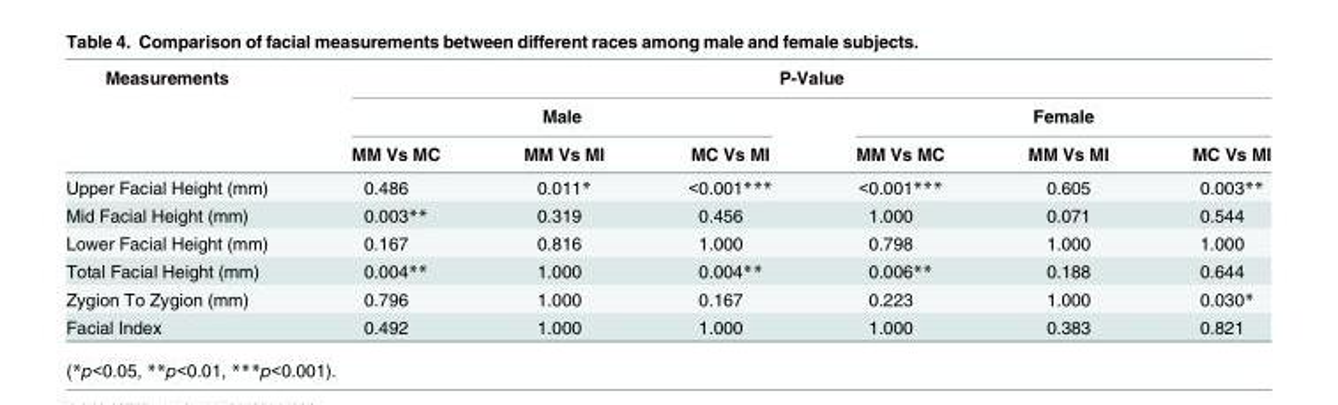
<table><thead><tr><td rowspan="3">Measurements</td><td colspan="6">P-Value</td></tr><tr><td colspan="3">Male</td><td colspan="3">Female</td></tr><tr><td>MM Vs MC</td><td>MM Vs MI</td><td>MC Vs MI</td><td>MM Vs MC</td><td>MM Vs MI</td><td>MC Vs MI</td></tr></thead><tbody><tr><td>Upper Facial Height (mm)</td><td>0.486</td><td>0.011*</td><td>&lt;0.001***</td><td>&lt;0.001***</td><td>0.605</td><td>0.003**</td></tr><tr><td>Mid Facial Height (mm)</td><td>0.003**</td><td>0.319</td><td>0.456</td><td>1.000</td><td>0.071</td><td>0.544</td></tr><tr><td>Lower Facial Height (mm)</td><td>0.167</td><td>0.816</td><td>1.000</td><td>0.798</td><td>1.000</td><td>1.000</td></tr><tr><td>Total Facial Height (mm)</td><td>0.004**</td><td>1.000</td><td>0.004**</td><td>0.006**</td><td>0.188</td><td>0.644</td></tr><tr><td>Zygion To Zygion (mm)</td><td>0.796</td><td>1.000</td><td>0.167</td><td>0.223</td><td>1.000</td><td>0.030*</td></tr><tr><td>Facial Index</td><td>0.492</td><td>1.000</td><td>1.000</td><td>1.000</td><td>0.383</td><td>0.821</td></tr></tbody></table>